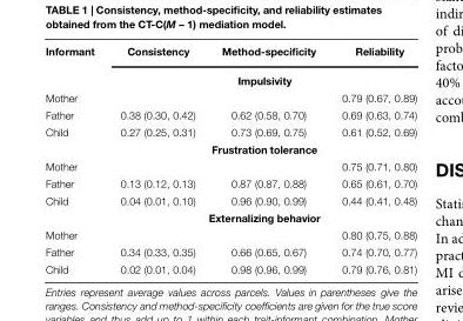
<table><tbody><tr><td rowspan="2">Informant</td><td>Consistency</td><td>Method-specificity</td><td>Reliability</td></tr><tr><td colspan="3">Impulsivity</td></tr><tr><td>Mother</td><td></td><td></td><td>0.79 (0.67, 0.89)</td></tr><tr><td>Father</td><td>0.38 (0.30, 0.42)</td><td>0.62 (0.58, 0.70)</td><td>0.69 (0.63, 0.74)</td></tr><tr><td rowspan="2">Child</td><td>0.27 (0.25, 0.31)</td><td>0.73 (0.69, 0.75)</td><td>0.61 (0.52, 0.69)</td></tr><tr><td colspan="3">Frustration tolerance</td></tr><tr><td>Mother</td><td></td><td></td><td>0.75 (0.71, 0.80)</td></tr><tr><td>Father</td><td>0.13 (0.12, 0.13)</td><td>0.87 (0.87, 0.88)</td><td>0.65 (0.61, 0.70)</td></tr><tr><td rowspan="2">Child</td><td>0.04 (0.01, 0.10)</td><td>0.96 (0.90, 0.99)</td><td>0.44 (0.41, 0.48)</td></tr><tr><td colspan="3">Externalizing behavior</td></tr><tr><td>Mother</td><td></td><td></td><td>0.80 (0.75, 0.88)</td></tr><tr><td>Father</td><td>0.34 (0.33, 0.35)</td><td>0.66 (0.65, 0.67)</td><td>0.74 (0.70, 0.77)</td></tr><tr><td>Child</td><td>0.02 (0.01, 0.04)</td><td>0.98 (0.96, 0.99)</td><td>0.79 (0.76, 0.81)</td></tr></tbody></table>